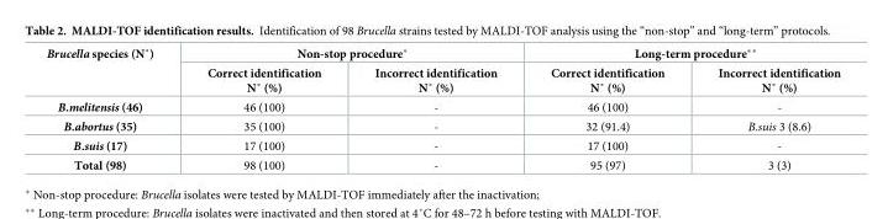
<table><thead><tr><td rowspan="2">Brucella species (N˚)</td><td colspan="2">Non-stop procedure*</td><td colspan="2">Long-term procedure**</td></tr><tr><td>Correct identification N˚ (%)</td><td>Incorrect identification N˚ (%)</td><td>Correct identification N˚ (%)</td><td>Incorrect identification N˚ (%)</td></tr></thead><tbody><tr><td>B.melitensis (46)</td><td>46 (100)</td><td>-</td><td>46 (100)</td><td>-</td></tr><tr><td>B.abortus (35)</td><td>35 (100)</td><td>-</td><td>32 (91.4)</td><td>B.suis 3 (8.6)</td></tr><tr><td>B.suis (17)</td><td>17 (100)</td><td>-</td><td>17 (100)</td><td>-</td></tr><tr><td>Total (98)</td><td>98 (100)</td><td>-</td><td>95 (97)</td><td>3 (3)</td></tr></tbody></table>